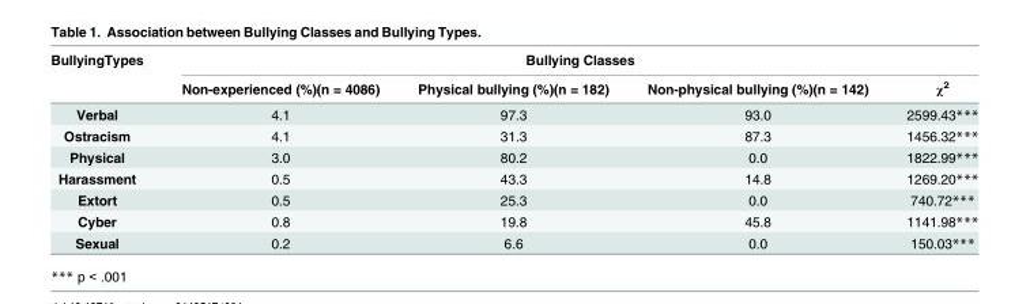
<table><thead><tr><td rowspan="2">BullyingTypes</td><td colspan="4">Bullying Classes</td></tr><tr><td>Non-experienced (%)(n = 4086)</td><td>Physical bullying (%)(n = 182)</td><td>Non-physical bullying (%)(n = 142)</td><td>χ<sup>2</sup></td></tr></thead><tbody><tr><td>Verbal</td><td>4.1</td><td>97.3</td><td>93.0</td><td>2599.43***</td></tr><tr><td>Ostracism</td><td>4.1</td><td>31.3</td><td>87.3</td><td>1456.32***</td></tr><tr><td>Physical</td><td>3.0</td><td>80.2</td><td>0.0</td><td>1822.99***</td></tr><tr><td>Harassment</td><td>0.5</td><td>43.3</td><td>14.8</td><td>1269.20***</td></tr><tr><td>Extort</td><td>0.5</td><td>25.3</td><td>0.0</td><td>740.72***</td></tr><tr><td>Cyber</td><td>0.8</td><td>19.8</td><td>45.8</td><td>1141.98***</td></tr><tr><td>Sexual</td><td>0.2</td><td>6.6</td><td>0.0</td><td>150.03***</td></tr></tbody></table>